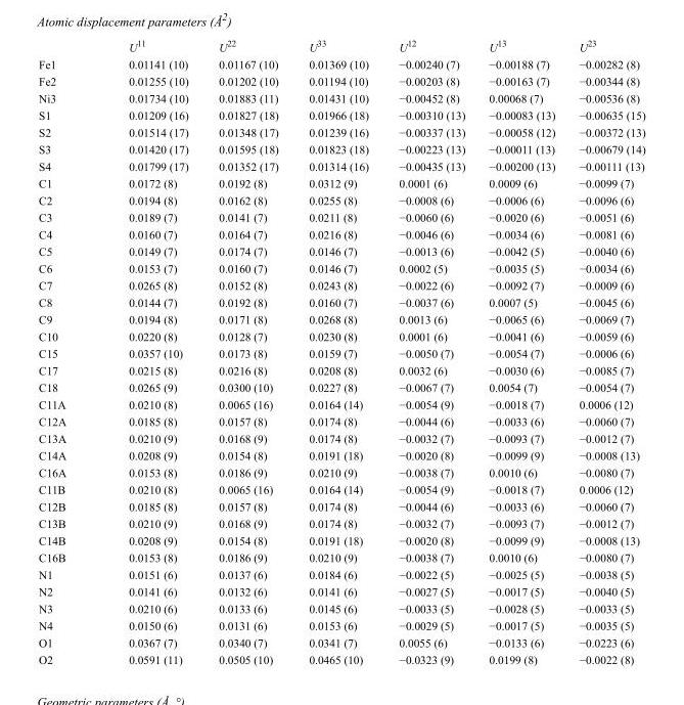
<table><thead><tr><td></td><td>U<sup>11</sup></td><td>U<sup>22</sup></td><td>U<sup>33</sup></td><td>U<sup>12</sup></td><td>U<sup>13</sup></td><td>U<sup>23</sup></td></tr></thead><tbody><tr><td>Fe1</td><td>0.01141 (10)</td><td>0.01167 (10)</td><td>0.01369 (10)</td><td>−0.00240 (7)</td><td>−0.00188 (7)</td><td>−0.00282 (8)</td></tr><tr><td>Fe2</td><td>0.01255 (10)</td><td>0.01202 (10)</td><td>0.01194 (10)</td><td>−0.00203 (8)</td><td>−0.00163 (7)</td><td>−0.00344 (8)</td></tr><tr><td>Ni3</td><td>0.01734 (10)</td><td>0.01883 (11)</td><td>0.01431 (10)</td><td>−0.00452 (8)</td><td>0.00068 (7)</td><td>−0.00536 (8)</td></tr><tr><td>S1</td><td>0.01209 (16)</td><td>0.01827 (18)</td><td>0.01966 (18)</td><td>−0.00310 (13)</td><td>−0.00083 (13)</td><td>−0.00635 (15)</td></tr><tr><td>S2</td><td>0.01514 (17)</td><td>0.01348 (17)</td><td>0.01239 (16)</td><td>−0.00337 (13)</td><td>−0.00058 (12)</td><td>−0.00372 (13)</td></tr><tr><td>S3</td><td>0.01420 (17)</td><td>0.01595 (18)</td><td>0.01823 (18)</td><td>−0.00223 (13)</td><td>−0.00011 (13)</td><td>−0.00679 (14)</td></tr><tr><td>S4</td><td>0.01799 (17)</td><td>0.01352 (17)</td><td>0.01314 (16)</td><td>−0.00435 (13)</td><td>−0.00200 (13)</td><td>−0.00111 (13)</td></tr><tr><td>C1</td><td>0.0172 (8)</td><td>0.0192 (8)</td><td>0.0312 (9)</td><td>0.0001 (6)</td><td>0.0009 (6)</td><td>−0.0099 (7)</td></tr><tr><td>C2</td><td>0.0194 (8)</td><td>0.0162 (8)</td><td>0.0255 (8)</td><td>−0.0008 (6)</td><td>−0.0006 (6)</td><td>−0.0096 (6)</td></tr><tr><td>C3</td><td>0.0189 (7)</td><td>0.0141 (7)</td><td>0.0211 (8)</td><td>−0.0060 (6)</td><td>−0.0020 (6)</td><td>−0.0051 (6)</td></tr><tr><td>C4</td><td>0.0160 (7)</td><td>0.0164 (7)</td><td>0.0216 (8)</td><td>−0.0046 (6)</td><td>−0.0034 (6)</td><td>−0.0081 (6)</td></tr><tr><td>C5</td><td>0.0149 (7)</td><td>0.0174 (7)</td><td>0.0146 (7)</td><td>−0.0013 (6)</td><td>−0.0042 (5)</td><td>−0.0040 (6)</td></tr><tr><td>C6</td><td>0.0153 (7)</td><td>0.0160 (7)</td><td>0.0146 (7)</td><td>0.0002 (5)</td><td>−0.0035 (5)</td><td>−0.0034 (6)</td></tr><tr><td>C7</td><td>0.0265 (8)</td><td>0.0152 (8)</td><td>0.0243 (8)</td><td>−0.0022 (6)</td><td>−0.0092 (7)</td><td>−0.0009 (6)</td></tr><tr><td>C8</td><td>0.0144 (7)</td><td>0.0192 (8)</td><td>0.0160 (7)</td><td>−0.0037 (6)</td><td>0.0007 (5)</td><td>−0.0045 (6)</td></tr><tr><td>C9</td><td>0.0194 (8)</td><td>0.0171 (8)</td><td>0.0268 (8)</td><td>0.0013 (6)</td><td>−0.0065 (6)</td><td>−0.0069 (7)</td></tr><tr><td>C10</td><td>0.0220 (8)</td><td>0.0128 (7)</td><td>0.0230 (8)</td><td>0.0001 (6)</td><td>−0.0041 (6)</td><td>−0.0059 (6)</td></tr><tr><td>C15</td><td>0.0357 (10)</td><td>0.0173 (8)</td><td>0.0159 (7)</td><td>−0.0050 (7)</td><td>−0.0054 (7)</td><td>−0.0006 (6)</td></tr><tr><td>C17</td><td>0.0215 (8)</td><td>0.0216 (8)</td><td>0.0208 (8)</td><td>0.0032 (6)</td><td>−0.0030 (6)</td><td>−0.0085 (7)</td></tr><tr><td>C18</td><td>0.0265 (9)</td><td>0.0300 (10)</td><td>0.0227 (8)</td><td>−0.0067 (7)</td><td>0.0054 (7)</td><td>−0.0054 (7)</td></tr><tr><td>C11A</td><td>0.0210 (8)</td><td>0.0065 (16)</td><td>0.0164 (14)</td><td>−0.0054 (9)</td><td>−0.0018 (7)</td><td>0.0006 (12)</td></tr><tr><td>C12A</td><td>0.0185 (8)</td><td>0.0157 (8)</td><td>0.0174 (8)</td><td>−0.0044 (6)</td><td>−0.0033 (6)</td><td>−0.0060 (7)</td></tr><tr><td>C13A</td><td>0.0210 (9)</td><td>0.0168 (9)</td><td>0.0174 (8)</td><td>−0.0032 (7)</td><td>−0.0093 (7)</td><td>−0.0012 (7)</td></tr><tr><td>C14A</td><td>0.0208 (9)</td><td>0.0154 (8)</td><td>0.0191 (18)</td><td>−0.0020 (8)</td><td>−0.0099 (9)</td><td>−0.0008 (13)</td></tr><tr><td>C16A</td><td>0.0153 (8)</td><td>0.0186 (9)</td><td>0.0210 (9)</td><td>−0.0038 (7)</td><td>0.0010 (6)</td><td>−0.0080 (7)</td></tr><tr><td>C11B</td><td>0.0210 (8)</td><td>0.0065 (16)</td><td>0.0164 (14)</td><td>−0.0054 (9)</td><td>−0.0018 (7)</td><td>0.0006 (12)</td></tr><tr><td>C12B</td><td>0.0185 (8)</td><td>0.0157 (8)</td><td>0.0174 (8)</td><td>−0.0044 (6)</td><td>−0.0033 (6)</td><td>−0.0060 (7)</td></tr><tr><td>C13B</td><td>0.0210 (9)</td><td>0.0168 (9)</td><td>0.0174 (8)</td><td>−0.0032 (7)</td><td>−0.0093 (7)</td><td>−0.0012 (7)</td></tr><tr><td>C14B</td><td>0.0208 (9)</td><td>0.0154 (8)</td><td>0.0191 (18)</td><td>−0.0020 (8)</td><td>−0.0099 (9)</td><td>−0.0008 (13)</td></tr><tr><td>C16B</td><td>0.0153 (8)</td><td>0.0186 (9)</td><td>0.0210 (9)</td><td>−0.0038 (7)</td><td>0.0010 (6)</td><td>−0.0080 (7)</td></tr><tr><td>N1</td><td>0.0151 (6)</td><td>0.0137 (6)</td><td>0.0184 (6)</td><td>−0.0022 (5)</td><td>−0.0025 (5)</td><td>−0.0038 (5)</td></tr><tr><td>N2</td><td>0.0141 (6)</td><td>0.0132 (6)</td><td>0.0141 (6)</td><td>−0.0027 (5)</td><td>−0.0017 (5)</td><td>−0.0040 (5)</td></tr><tr><td>N3</td><td>0.0210 (6)</td><td>0.0133 (6)</td><td>0.0145 (6)</td><td>−0.0033 (5)</td><td>−0.0028 (5)</td><td>−0.0033 (5)</td></tr><tr><td>N4</td><td>0.0150 (6)</td><td>0.0131 (6)</td><td>0.0153 (6)</td><td>−0.0029 (5)</td><td>−0.0017 (5)</td><td>−0.0035 (5)</td></tr><tr><td>O1</td><td>0.0367 (7)</td><td>0.0340 (7)</td><td>0.0341 (7)</td><td>0.0055 (6)</td><td>−0.0133 (6)</td><td>−0.0223 (6)</td></tr><tr><td>O2</td><td>0.0591 (11)</td><td>0.0505 (10)</td><td>0.0465 (10)</td><td>−0.0323 (9)</td><td>0.0199 (8)</td><td>−0.0022 (8)</td></tr></tbody></table>